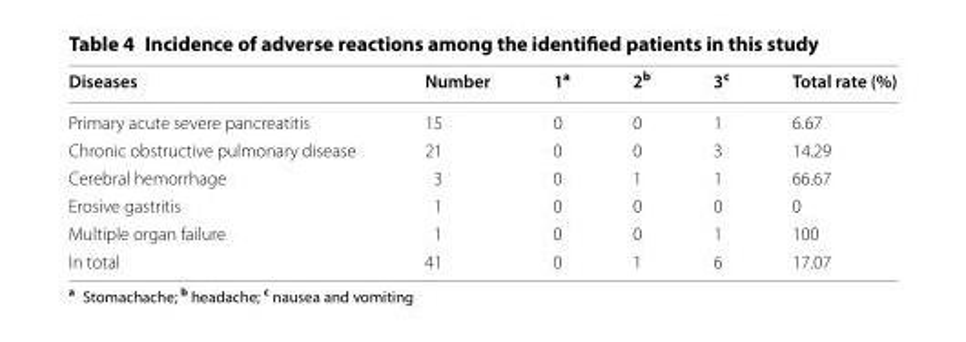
<table><thead><tr><td>Diseases</td><td>Number</td><td>1<sup>a</sup></td><td>2<sup>b</sup></td><td>3<sup>c</sup></td><td>Total rate (%)</td></tr></thead><tbody><tr><td>Primary acute severe pancreatitis</td><td>15</td><td>0</td><td>0</td><td>1</td><td>6.67</td></tr><tr><td>Chronic obstructive pulmonary disease</td><td>21</td><td>0</td><td>0</td><td>3</td><td>14.29</td></tr><tr><td>Cerebral hemorrhage</td><td>3</td><td>0</td><td>1</td><td>1</td><td>66.67</td></tr><tr><td>Erosive gastritis</td><td>1</td><td>0</td><td>0</td><td>0</td><td>0</td></tr><tr><td>Multiple organ failure</td><td>1</td><td>0</td><td>0</td><td>1</td><td>100</td></tr><tr><td>In total</td><td>41</td><td>0</td><td>1</td><td>6</td><td>17.07</td></tr></tbody></table>